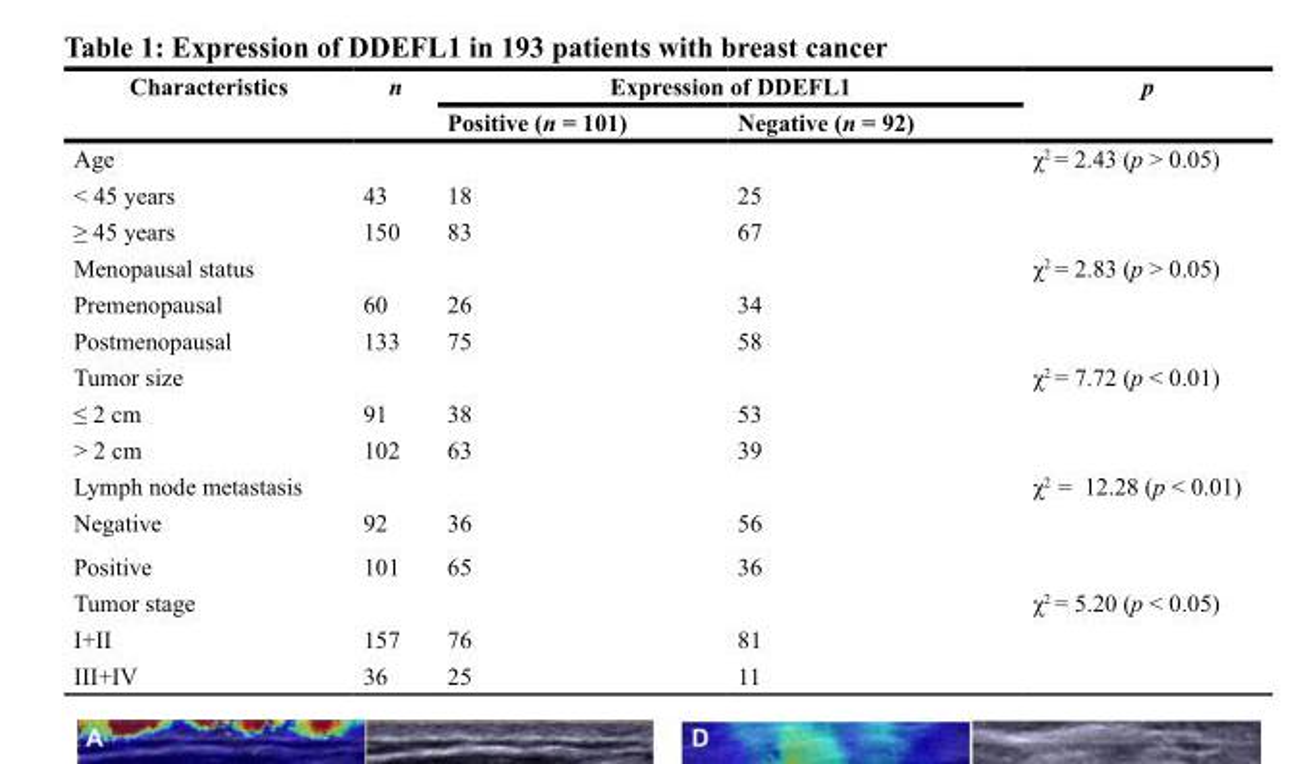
<table><thead><tr><td rowspan="2">Characteristics</td><td rowspan="2">n</td><td colspan="2">Expression of DDEFL1</td><td rowspan="2">p</td></tr><tr><td>Positive (n = 101)</td><td>Negative (n = 92)</td></tr></thead><tbody><tr><td colspan="4">Age</td><td rowspan="3">χ<sup>2</sup> = 2.43 (p &gt; 0.05)</td></tr><tr><td>&lt; 45 years</td><td>43</td><td>18</td><td>25</td></tr><tr><td>≥ 45 years</td><td>150</td><td>83</td><td>67</td></tr><tr><td colspan="4">Menopausal status</td><td rowspan="3">χ<sup>2</sup> = 2.83 (p &gt; 0.05)</td></tr><tr><td>Premenopausal</td><td>60</td><td>26</td><td>34</td></tr><tr><td>Postmenopausal</td><td>133</td><td>75</td><td>58</td></tr><tr><td colspan="4">Tumor size</td><td rowspan="3">χ<sup>2</sup> = 7.72 (p &lt; 0.01)</td></tr><tr><td>≤ 2 cm</td><td>91</td><td>38</td><td>53</td></tr><tr><td>&gt; 2 cm</td><td>102</td><td>63</td><td>39</td></tr><tr><td colspan="4">Lymph node metastasis</td><td rowspan="3">χ<sup>2</sup> = 12.28 (p &lt; 0.01)</td></tr><tr><td>Negative</td><td>92</td><td>36</td><td>56</td></tr><tr><td>Positive</td><td>101</td><td>65</td><td>36</td></tr><tr><td colspan="4">Tumor stage</td><td rowspan="3">χ<sup>2</sup> = 5.20 (p &lt; 0.05)</td></tr><tr><td>I+II</td><td>157</td><td>76</td><td>81</td></tr><tr><td>III+IV</td><td>36</td><td>25</td><td>11</td></tr></tbody></table>